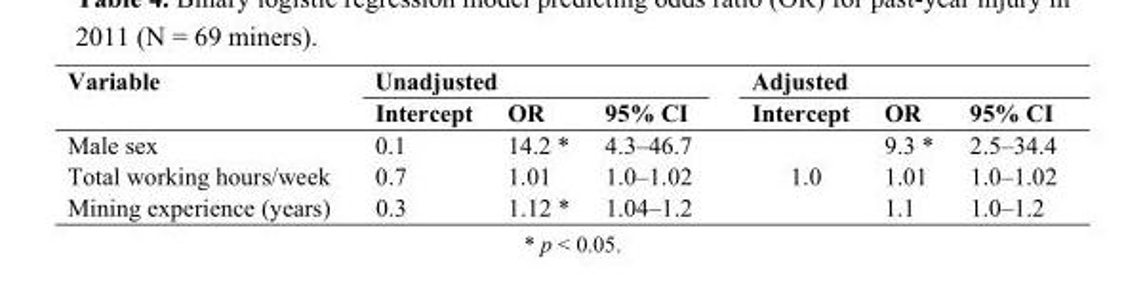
<table><thead><tr><td rowspan="2">Variable</td><td colspan="3">Unadjusted</td><td colspan="3">Adjusted</td></tr><tr><td>Intercept</td><td>OR</td><td>95% CI</td><td>Intercept</td><td>OR</td><td>95% CI</td></tr></thead><tbody><tr><td>Male sex</td><td>0.1</td><td>14.2 *</td><td>4.3–46.7</td><td rowspan="3">1.0</td><td>9.3 *</td><td>2.5–34.4</td></tr><tr><td>Total working hours/week</td><td>0.7</td><td>1.01</td><td>1.0–1.02</td><td>1.01</td><td>1.0–1.02</td></tr><tr><td>Mining experience (years)</td><td>0.3</td><td>1.12 *</td><td>1.04–1.2</td><td>1.1</td><td>1.0–1.2</td></tr></tbody></table>